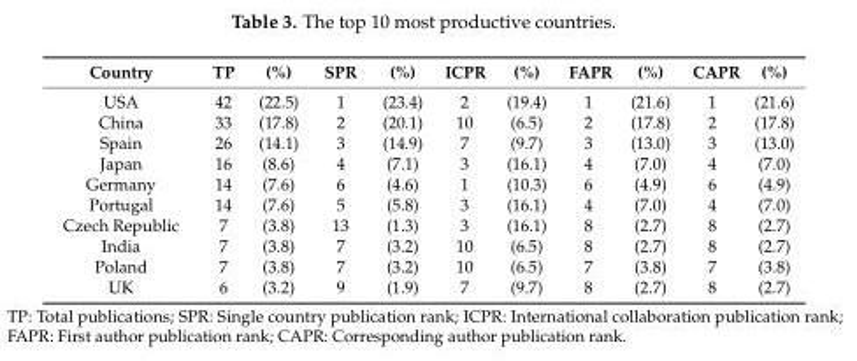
<table><thead><tr><td>Country</td><td>TP</td><td>(%)</td><td>SPR</td><td>(%)</td><td>ICPR</td><td>(%)</td><td>FAPR</td><td>(%)</td><td>CAPR</td><td>(%)</td></tr></thead><tbody><tr><td>USA</td><td>42</td><td>(22.5)</td><td>1</td><td>(23.4)</td><td>2</td><td>(19.4)</td><td>1</td><td>(21.6)</td><td>1</td><td>(21.6)</td></tr><tr><td>China</td><td>33</td><td>(17.8)</td><td>2</td><td>(20.1)</td><td>10</td><td>(6.5)</td><td>2</td><td>(17.8)</td><td>2</td><td>(17.8)</td></tr><tr><td>Spain</td><td>26</td><td>(14.1)</td><td>3</td><td>(14.9)</td><td>7</td><td>(9.7)</td><td>3</td><td>(13.0)</td><td>3</td><td>(13.0)</td></tr><tr><td>Japan</td><td>16</td><td>(8.6)</td><td>4</td><td>(7.1)</td><td>3</td><td>(16.1)</td><td>4</td><td>(7.0)</td><td>4</td><td>(7.0)</td></tr><tr><td>Germany</td><td>14</td><td>(7.6)</td><td>6</td><td>(4.6)</td><td>1</td><td>(10.3)</td><td>6</td><td>(4.9)</td><td>6</td><td>(4.9)</td></tr><tr><td>Portugal</td><td>14</td><td>(7.6)</td><td>5</td><td>(5.8)</td><td>3</td><td>(16.1)</td><td>4</td><td>(7.0)</td><td>4</td><td>(7.0)</td></tr><tr><td>Czech Republic</td><td>7</td><td>(3.8)</td><td>13</td><td>(1.3)</td><td>3</td><td>(16.1)</td><td>8</td><td>(2.7)</td><td>8</td><td>(2.7)</td></tr><tr><td>India</td><td>7</td><td>(3.8)</td><td>7</td><td>(3.2)</td><td>10</td><td>(6.5)</td><td>8</td><td>(2.7)</td><td>8</td><td>(2.7)</td></tr><tr><td>Poland</td><td>7</td><td>(3.8)</td><td>7</td><td>(3.2)</td><td>10</td><td>(6.5)</td><td>7</td><td>(3.8)</td><td>7</td><td>(3.8)</td></tr><tr><td>UK</td><td>6</td><td>(3.2)</td><td>9</td><td>(1.9)</td><td>7</td><td>(9.7)</td><td>8</td><td>(2.7)</td><td>8</td><td>(2.7)</td></tr></tbody></table>